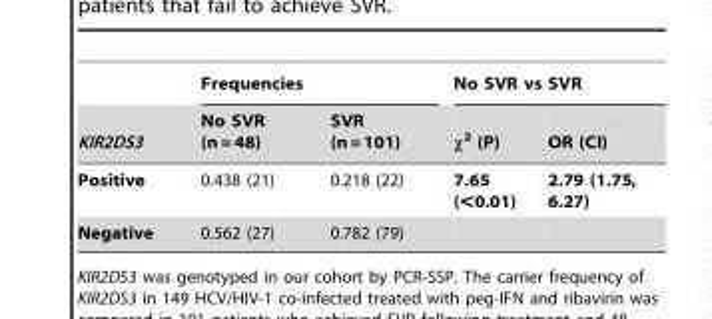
<table><thead><tr><td rowspan="2">KIR2DS3</td><td colspan="2">Frequencies</td><td colspan="2">No SVR vs SVR</td></tr><tr><td>No SVR (n = 48)</td><td>SVR (n = 101)</td><td>χ<sup>2</sup> (P)</td><td>OR (CI)</td></tr></thead><tbody><tr><td>Positive</td><td>0.438 (21)</td><td>0.218 (22)</td><td>7.65 (&lt;0.01)</td><td>2.79 (1.75, 6.27)</td></tr><tr><td>Negative</td><td>0.562 (27)</td><td>0.782 (79)</td><td></td><td></td></tr></tbody></table>